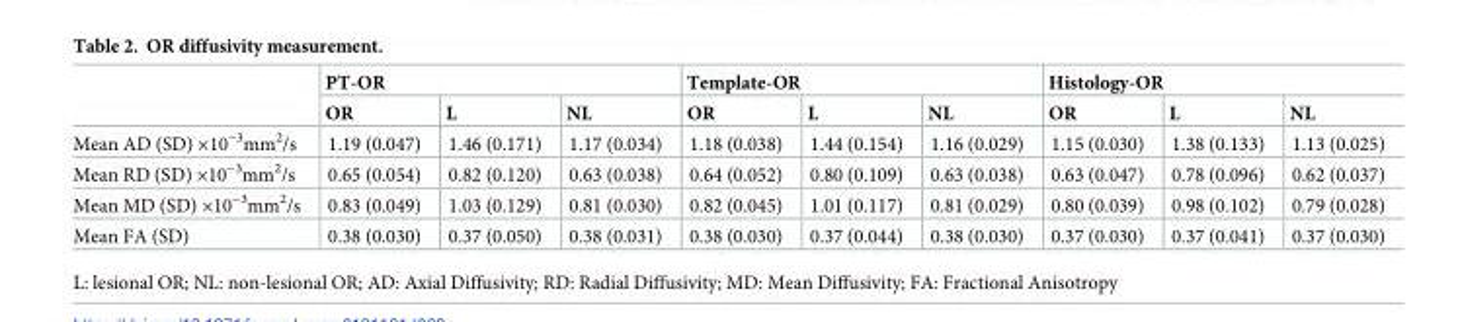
<table><thead><tr><td rowspan="2"></td><td colspan="3">PT-OR</td><td colspan="3">Template-OR</td><td colspan="3">Histology-OR</td></tr><tr><td>OR</td><td>L</td><td>NL</td><td>OR</td><td>L</td><td>NL</td><td>OR</td><td>L</td><td>NL</td></tr></thead><tbody><tr><td>Mean AD (SD) ×10<sup>−3</sup>mm<sup>2</sup>/s</td><td>1.19 (0.047)</td><td>1.46 (0.171)</td><td>1.17 (0.034)</td><td>1.18 (0.038)</td><td>1.44 (0.154)</td><td>1.16 (0.029)</td><td>1.15 (0.030)</td><td>1.38 (0.133)</td><td>1.13 (0.025)</td></tr><tr><td>Mean RD (SD) ×10<sup>−3</sup>mm<sup>2</sup>/s</td><td>0.65 (0.054)</td><td>0.82 (0.120)</td><td>0.63 (0.038)</td><td>0.64 (0.052)</td><td>0.80 (0.109)</td><td>0.63 (0.038)</td><td>0.63 (0.047)</td><td>0.78 (0.096)</td><td>0.62 (0.037)</td></tr><tr><td>Mean MD (SD) ×10<sup>−3</sup>mm<sup>2</sup>/s</td><td>0.83 (0.049)</td><td>1.03 (0.129)</td><td>0.81 (0.030)</td><td>0.82 (0.045)</td><td>1.01 (0.117)</td><td>0.81 (0.029)</td><td>0.80 (0.039)</td><td>0.98 (0.102)</td><td>0.79 (0.028)</td></tr><tr><td>Mean FA (SD)</td><td>0.38 (0.030)</td><td>0.37 (0.050)</td><td>0.38 (0.031)</td><td>0.38 (0.030)</td><td>0.37 (0.044)</td><td>0.38 (0.030)</td><td>0.37 (0.030)</td><td>0.37 (0.041)</td><td>0.37 (0.030)</td></tr></tbody></table>